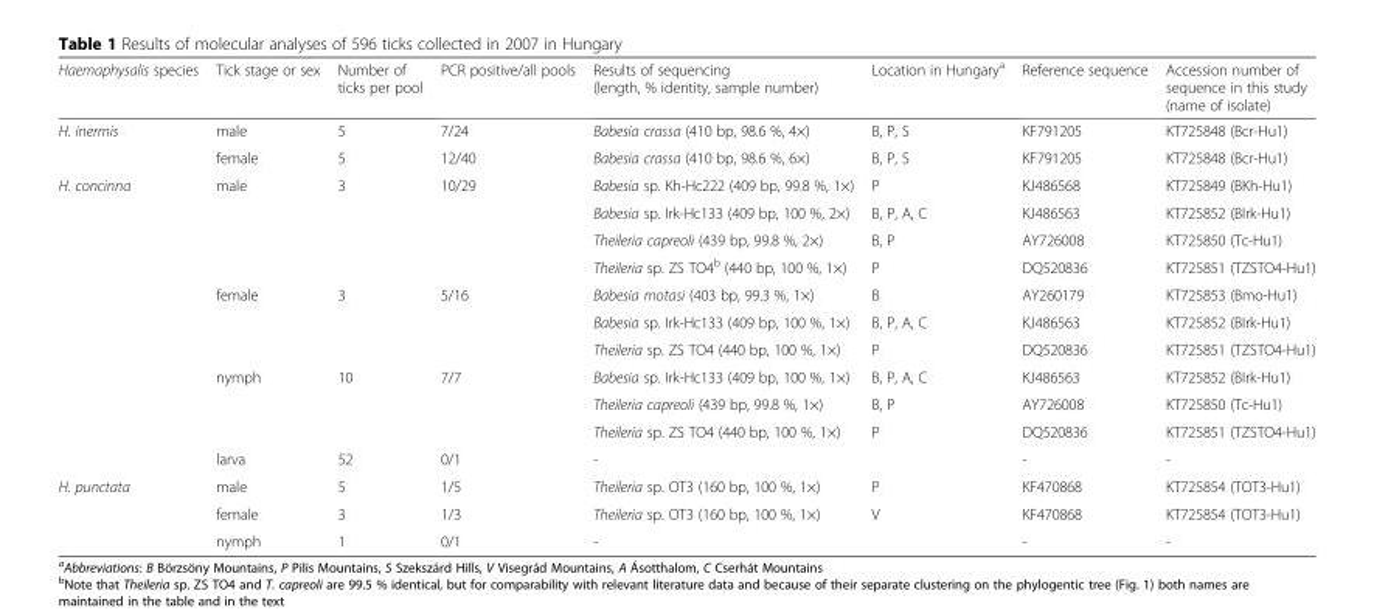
<table><thead><tr><td>Haemaphysalis species</td><td>Tick stage or sex</td><td>Number of ticks per pool</td><td>PCR positive/all pools</td><td>Results of sequencing (length, % identity, sample number)</td><td>Location in Hungary<sup>a</sup></td><td>Reference sequence</td><td>Accession number of sequence in this study (name of isolate)</td></tr></thead><tbody><tr><td rowspan="2">H. inermis</td><td>male</td><td>5</td><td>7/24</td><td>Babesia crassa (410 bp, 98.6 %, 4×)</td><td>B, P, S</td><td>KF791205</td><td>KT725848 (Bcr-Hu1)</td></tr><tr><td>female</td><td>5</td><td>12/40</td><td>Babesia crassa (410 bp, 98.6 %, 6×)</td><td>B, P, S</td><td>KF791205</td><td>KT725848 (Bcr-Hu1)</td></tr><tr><td rowspan="11">H. concinna</td><td rowspan="4">male</td><td rowspan="4">3</td><td rowspan="4">10/29</td><td>Babesia sp. Kh-Hc222 (409 bp, 99.8 %, 1×)</td><td>P</td><td>KJ486568</td><td>KT725849 (BKh-Hu1)</td></tr><tr><td>Babesia sp. Irk-Hc133 (409 bp, 100 %, 2×)</td><td>B, P, A, C</td><td>KJ486563</td><td>KT725852 (BIrk-Hu1)</td></tr><tr><td>Theileria capreoli (439 bp, 99.8 %, 2×)</td><td>B, P</td><td>AY726008</td><td>KT725850 (Tc-Hu1)</td></tr><tr><td>Theileria sp. ZS TO4<sup>b</sup> (440 bp, 100 %, 1×)</td><td>P</td><td>DQ520836</td><td>KT725851 (TZSTO4-Hu1)</td></tr><tr><td rowspan="3">female</td><td rowspan="3">3</td><td rowspan="3">5/16</td><td>Babesia motasi (403 bp, 99.3 %, 1×)</td><td>B</td><td>AY260179</td><td>KT725853 (Bmo-Hu1)</td></tr><tr><td>Babesia sp. Irk-Hc133 (409 bp, 100 %, 1×)</td><td>B, P, A, C</td><td>KJ486563</td><td>KT725852 (BIrk-Hu1)</td></tr><tr><td>Theileria sp. ZS TO4 (440 bp, 100 %, 1×)</td><td>P</td><td>DQ520836</td><td>KT725851 (TZSTO4-Hu1)</td></tr><tr><td rowspan="3">nymph</td><td rowspan="3">10</td><td rowspan="3">7/7</td><td>Babesia sp. Irk-Hc133 (409 bp, 100 %, 1×)</td><td>B, P, A, C</td><td>KJ486563</td><td>KT725852 (BIrk-Hu1)</td></tr><tr><td>Theileria capreoli (439 bp, 99.8 %, 1×)</td><td>B, P</td><td>AY726008</td><td>KT725850 (Tc-Hu1)</td></tr><tr><td>Theileria sp. ZS TO4 (440 bp, 100 %, 1×)</td><td>P</td><td>DQ520836</td><td>KT725851 (TZSTO4-Hu1)</td></tr><tr><td>larva</td><td>52</td><td>0/1</td><td>-</td><td></td><td>-</td><td>-</td></tr><tr><td rowspan="3">H. punctata</td><td>male</td><td>5</td><td>1/5</td><td>Theileria sp. OT3 (160 bp, 100 %, 1×)</td><td>P</td><td>KF470868</td><td>KT725854 (TOT3-Hu1)</td></tr><tr><td>female</td><td>3</td><td>1/3</td><td>Theileria sp. OT3 (160 bp, 100 %, 1×)</td><td>V</td><td>KF470868</td><td>KT725854 (TOT3-Hu1)</td></tr><tr><td>nymph</td><td>1</td><td>0/1</td><td>-</td><td></td><td>-</td><td>-</td></tr></tbody></table>